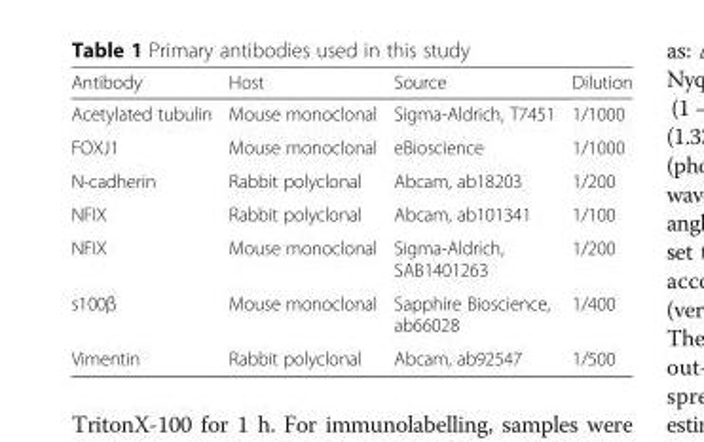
<table><thead><tr><td>Antibody</td><td>Host</td><td>Source</td><td>Dilution</td></tr></thead><tbody><tr><td>Acetylated tubulin</td><td>Mouse monoclonal</td><td>Sigma-Aldrich, T7451</td><td>1/1000</td></tr><tr><td>FOXJ1</td><td>Mouse monoclonal</td><td>eBioscience</td><td>1/1000</td></tr><tr><td>N-cadherin</td><td>Rabbit polyclonal</td><td>Abcam, ab18203</td><td>1/200</td></tr><tr><td>NFIX</td><td>Rabbit polyclonal</td><td>Abcam, ab101341</td><td>1/100</td></tr><tr><td>NFIX</td><td>Mouse monoclonal</td><td>Sigma-Aldrich, SAB1401263</td><td>1/200</td></tr><tr><td>s100β</td><td>Mouse monoclonal</td><td>Sapphire Bioscience, ab66028</td><td>1/400</td></tr><tr><td>Vimentin</td><td>Rabbit polyclonal</td><td>Abcam, ab92547</td><td>1/500</td></tr></tbody></table>